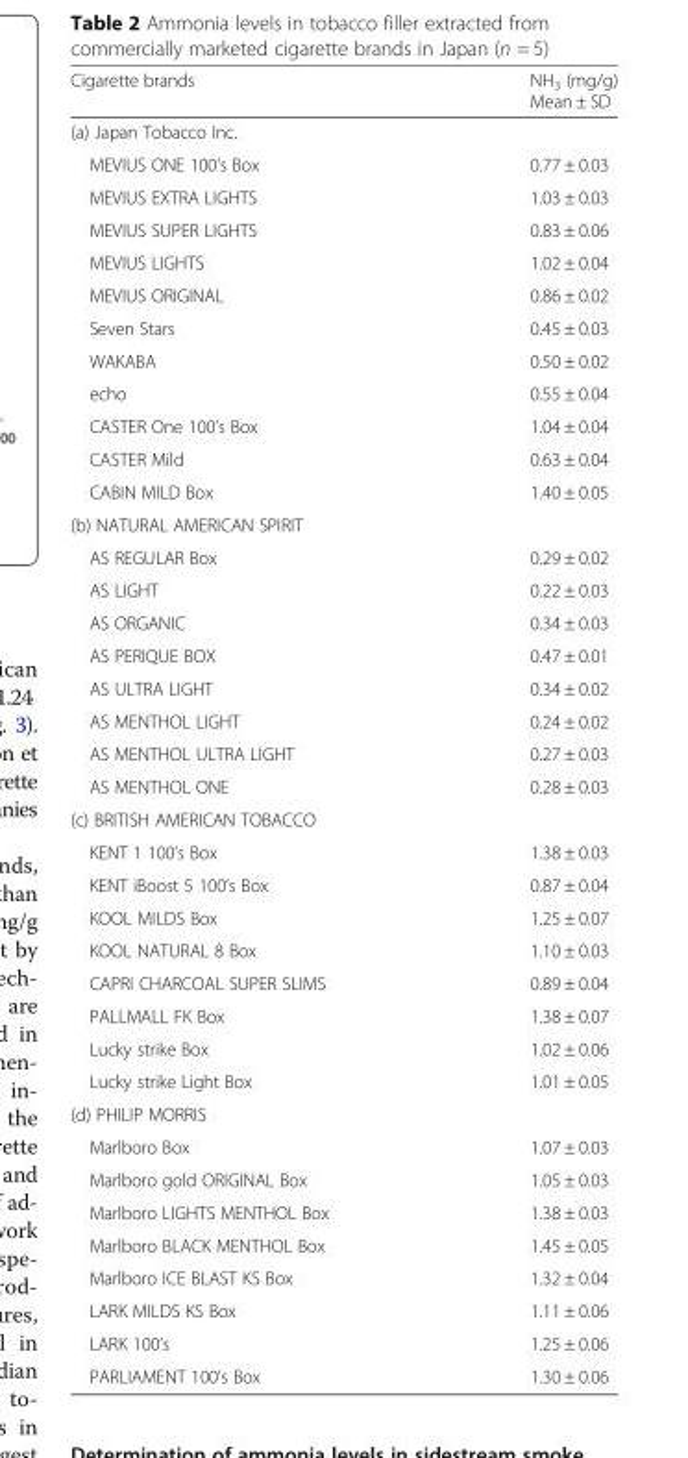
<table><thead><tr><td>Cigarette brands</td><td>NH<sub>3</sub> (mg/g) Mean ± SD</td></tr></thead><tbody><tr><td colspan="2">(a) Japan Tobacco Inc.</td></tr><tr><td>MEVIUS ONE 100’s Box</td><td>0.77 ± 0.03</td></tr><tr><td>MEVIUS EXTRA LIGHTS</td><td>1.03 ± 0.03</td></tr><tr><td>MEVIUS SUPER LIGHTS</td><td>0.83 ± 0.06</td></tr><tr><td>MEVIUS LIGHTS</td><td>1.02 ± 0.04</td></tr><tr><td>MEVIUS ORIGINAL</td><td>0.86 ± 0.02</td></tr><tr><td>Seven Stars</td><td>0.45 ± 0.03</td></tr><tr><td>WAKABA</td><td>0.50 ± 0.02</td></tr><tr><td>echo</td><td>0.55 ± 0.04</td></tr><tr><td>CASTER One 100’s Box</td><td>1.04 ± 0.04</td></tr><tr><td>CASTER Mild</td><td>0.63 ± 0.04</td></tr><tr><td>CABIN MILD Box</td><td>1.40 ± 0.05</td></tr><tr><td colspan="2">(b) NATURAL AMERICAN SPIRIT</td></tr><tr><td>AS REGULAR Box</td><td>0.29 ± 0.02</td></tr><tr><td>AS LIGHT</td><td>0.22 ± 0.03</td></tr><tr><td>AS ORGANIC</td><td>0.34 ± 0.03</td></tr><tr><td>AS PERIQUE BOX</td><td>0.47 ± 0.01</td></tr><tr><td>AS ULTRA LIGHT</td><td>0.34 ± 0.02</td></tr><tr><td>AS MENTHOL LIGHT</td><td>0.24 ± 0.02</td></tr><tr><td>AS MENTHOL ULTRA LIGHT</td><td>0.27 ± 0.03</td></tr><tr><td>AS MENTHOL ONE</td><td>0.28 ± 0.03</td></tr><tr><td colspan="2">(c) BRITISH AMERICAN TOBACCO</td></tr><tr><td>KENT 1 100’s Box</td><td>1.38 ± 0.03</td></tr><tr><td>KENT iBoost 5 100’s Box</td><td>0.87 ± 0.04</td></tr><tr><td>KOOL MILDS Box</td><td>1.25 ± 0.07</td></tr><tr><td>KOOL NATURAL 8 Box</td><td>1.10 ± 0.03</td></tr><tr><td>CAPRI CHARCOAL SUPER SLIMS</td><td>0.89 ± 0.04</td></tr><tr><td>PALLMALL FK Box</td><td>1.38 ± 0.07</td></tr><tr><td>Lucky strike Box</td><td>1.02 ± 0.06</td></tr><tr><td>Lucky strike Light Box</td><td>1.01 ± 0.05</td></tr><tr><td colspan="2">(d) PHILIP MORRIS</td></tr><tr><td>Marlboro Box</td><td>1.07 ± 0.03</td></tr><tr><td>Marlboro gold ORIGINAL Box</td><td>1.05 ± 0.03</td></tr><tr><td>Marlboro LIGHTS MENTHOL Box</td><td>1.38 ± 0.03</td></tr><tr><td>Marlboro BLACK MENTHOL Box</td><td>1.45 ± 0.05</td></tr><tr><td>Marlboro ICE BLAST KS Box</td><td>1.32 ± 0.04</td></tr><tr><td>LARK MILDS KS Box</td><td>1.11 ± 0.06</td></tr><tr><td>LARK 100’s</td><td>1.25 ± 0.06</td></tr><tr><td>PARLIAMENT 100’s Box</td><td>1.30 ± 0.06</td></tr></tbody></table>